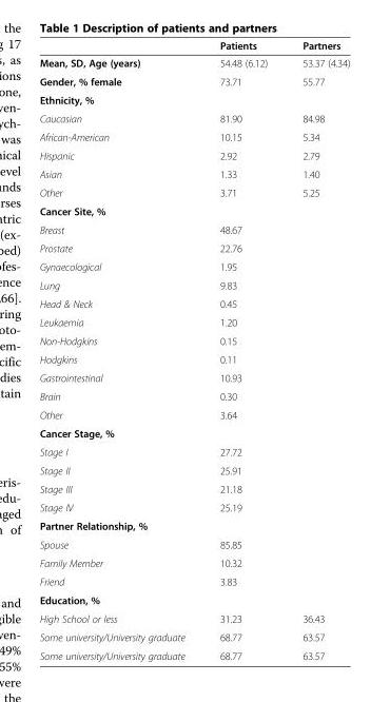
<table><thead><tr><td></td><td>Patients</td><td>Partners</td></tr></thead><tbody><tr><td>Mean, SD, Age (years)</td><td>54.48 (6.12)</td><td>53.37 (4.34)</td></tr><tr><td>Gender, % female</td><td>73.71</td><td>55.77</td></tr><tr><td colspan="3">Ethnicity, %</td></tr><tr><td>Caucasian</td><td>81.90</td><td>84.98</td></tr><tr><td>African-American</td><td>10.15</td><td>5.34</td></tr><tr><td>Hispanic</td><td>2.92</td><td>2.79</td></tr><tr><td>Asian</td><td>1.33</td><td>1.40</td></tr><tr><td>Other</td><td>3.71</td><td>5.25</td></tr><tr><td colspan="3">Cancer Site, %</td></tr><tr><td>Breast</td><td>48.67</td><td></td></tr><tr><td>Prostate</td><td>22.76</td><td></td></tr><tr><td>Gynaecological</td><td>1.95</td><td></td></tr><tr><td>Lung</td><td>9.83</td><td></td></tr><tr><td>Head &amp; Neck</td><td>0.45</td><td></td></tr><tr><td>Leukaemia</td><td>1.20</td><td></td></tr><tr><td>Non-Hodgkins</td><td>0.15</td><td></td></tr><tr><td>Hodgkins</td><td>0.11</td><td></td></tr><tr><td>Gastrointestinal</td><td>10.93</td><td></td></tr><tr><td>Brain</td><td>0.30</td><td></td></tr><tr><td>Other</td><td>3.64</td><td></td></tr><tr><td colspan="3">Cancer Stage, %</td></tr><tr><td>Stage I</td><td>27.72</td><td></td></tr><tr><td>Stage II</td><td>25.91</td><td></td></tr><tr><td>Stage III</td><td>21.18</td><td></td></tr><tr><td>Stage IV</td><td>25.19</td><td></td></tr><tr><td colspan="3">Partner Relationship, %</td></tr><tr><td>Spouse</td><td>85.85</td><td></td></tr><tr><td>Family Member</td><td>10.32</td><td></td></tr><tr><td>Friend</td><td>3.83</td><td></td></tr><tr><td colspan="3">Education, %</td></tr><tr><td>High School or less</td><td>31.23</td><td>36.43</td></tr><tr><td>Some university/University graduate</td><td>68.77</td><td>63.57</td></tr><tr><td>Some university/University graduate</td><td>68.77</td><td>63.57</td></tr></tbody></table>